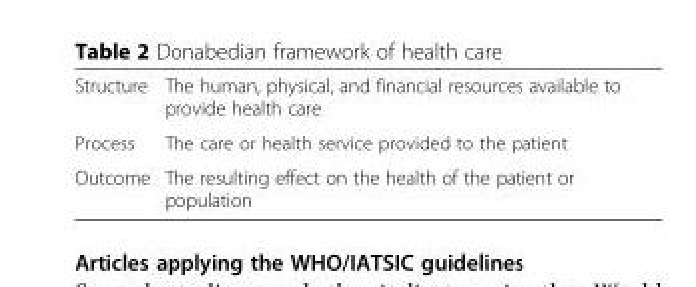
<table><tbody><tr><td>Structure</td><td>The human, physical, and financial resources available to provide health care</td></tr><tr><td>Process</td><td>The care or health service provided to the patient</td></tr><tr><td>Outcome</td><td>The resulting effect on the health of the patient or population</td></tr></tbody></table>